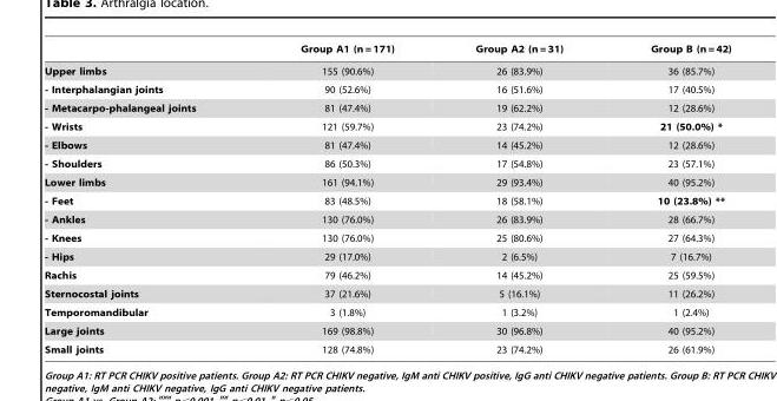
<table><thead><tr><td></td><td>Group A1 (n = 171)</td><td>Group A2 (n = 31)</td><td>Group B (n = 42)</td></tr></thead><tbody><tr><td>Upper limbs</td><td>155 (90.6%)</td><td>26 (83.9%)</td><td>36 (85.7%)</td></tr><tr><td>- Interphalangian joints</td><td>90 (52.6%)</td><td>16 (51.6%)</td><td>17 (40.5%)</td></tr><tr><td>- Metacarpo-phalangeal joints</td><td>81 (47.4%)</td><td>19 (62.2%)</td><td>12 (28.6%)</td></tr><tr><td>- Wrists</td><td>121 (59.7%)</td><td>23 (74.2%)</td><td>21 (50.0%) *</td></tr><tr><td>- Elbows</td><td>81 (47.4%)</td><td>14 (45.2%)</td><td>12 (28.6%)</td></tr><tr><td>- Shoulders</td><td>86 (50.3%)</td><td>17 (54.8%)</td><td>23 (57.1%)</td></tr><tr><td>Lower limbs</td><td>161 (94.1%)</td><td>29 (93.4%)</td><td>40 (95.2%)</td></tr><tr><td>- Feet</td><td>83 (48.5%)</td><td>18 (58.1%)</td><td>10 (23.8%) **</td></tr><tr><td>- Ankles</td><td>130 (76.0%)</td><td>26 (83.9%)</td><td>28 (66.7%)</td></tr><tr><td>- Knees</td><td>130 (76.0%)</td><td>25 (80.6%)</td><td>27 (64.3%)</td></tr><tr><td>- Hips</td><td>29 (17.0%)</td><td>2 (6.5%)</td><td>7 (16.7%)</td></tr><tr><td>Rachis</td><td>79 (46.2%)</td><td>14 (45.2%)</td><td>25 (59.5%)</td></tr><tr><td>Sternocostal joints</td><td>37 (21.6%)</td><td>5 (16.1%)</td><td>11 (26.2%)</td></tr><tr><td>Temporomandibular</td><td>3 (1.8%)</td><td>1 (3.2%)</td><td>1 (2.4%)</td></tr><tr><td>Large joints</td><td>169 (98.8%)</td><td>30 (96.8%)</td><td>40 (95.2%)</td></tr><tr><td>Small joints</td><td>128 (74.8%)</td><td>23 (74.2%)</td><td>26 (61.9%)</td></tr></tbody></table>